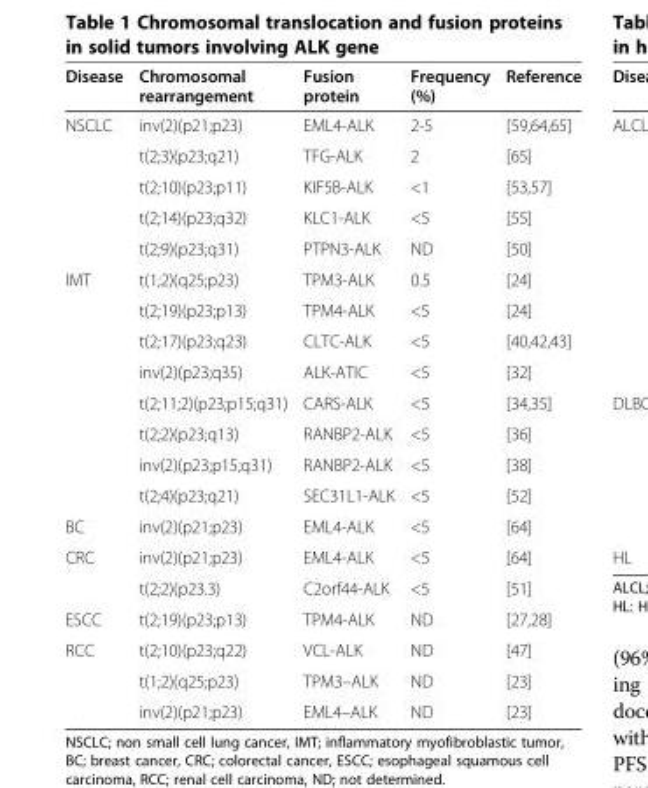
<table><thead><tr><td>Disease</td><td>Chromosomal rearrangement</td><td>Fusion protein</td><td>Frequency (%)</td><td>Reference</td></tr></thead><tbody><tr><td rowspan="5">NSCLC</td><td>inv(2)(p21;p23)</td><td>EML4-ALK</td><td>2-5</td><td>[59,64,65]</td></tr><tr><td>t(2;3)(p23;q21)</td><td>TFG-ALK</td><td>2</td><td>[65]</td></tr><tr><td>t(2;10)(p23;p11)</td><td>KIF5B-ALK</td><td>&lt;1</td><td>[53,57]</td></tr><tr><td>t(2;14)(p23;q32)</td><td>KLC1-ALK</td><td>&lt;5</td><td>[55]</td></tr><tr><td>t(2;9)(p23;q31)</td><td>PTPN3-ALK</td><td>ND</td><td>[50]</td></tr><tr><td rowspan="8">IMT</td><td>t(1;2)(q25;p23)</td><td>TPM3-ALK</td><td>0.5</td><td>[24]</td></tr><tr><td>t(2;19)(p23;p13)</td><td>TPM4-ALK</td><td>&lt;5</td><td>[24]</td></tr><tr><td>t(2;17)(p23;q23)</td><td>CLTC-ALK</td><td>&lt;5</td><td>[40,42,43]</td></tr><tr><td>inv(2)(p23;q35)</td><td>ALK-ATIC</td><td>&lt;5</td><td>[32]</td></tr><tr><td>t(2;11;2)(p23;p15;q31)</td><td>CARS-ALK</td><td>&lt;5</td><td>[34,35]</td></tr><tr><td>t(2;2)(p23;q13)</td><td>RANBP2-ALK</td><td>&lt;5</td><td>[36]</td></tr><tr><td>inv(2)(p23;p15;q31)</td><td>RANBP2-ALK</td><td>&lt;5</td><td>[38]</td></tr><tr><td>t(2;4)(p23;q21)</td><td>SEC31L1-ALK</td><td>&lt;5</td><td>[52]</td></tr><tr><td>BC</td><td>inv(2)(p21;p23)</td><td>EML4-ALK</td><td>&lt;5</td><td>[64]</td></tr><tr><td rowspan="2">CRC</td><td>inv(2)(p21;p23)</td><td>EML4-ALK</td><td>&lt;5</td><td>[64]</td></tr><tr><td>t(2;2)(p23.3)</td><td>C2orf44-ALK</td><td>&lt;5</td><td>[51]</td></tr><tr><td>ESCC</td><td>t(2;19)(p23;p13)</td><td>TPM4-ALK</td><td>ND</td><td>[27,28]</td></tr><tr><td rowspan="3">RCC</td><td>t(2;10)(p23;q22)</td><td>VCL-ALK</td><td>ND</td><td>[47]</td></tr><tr><td>t(1;2)(q25;p23)</td><td>TPM3–ALK</td><td>ND</td><td>[23]</td></tr><tr><td>inv(2)(p21;p23)</td><td>EML4–ALK</td><td>ND</td><td>[23]</td></tr></tbody></table>